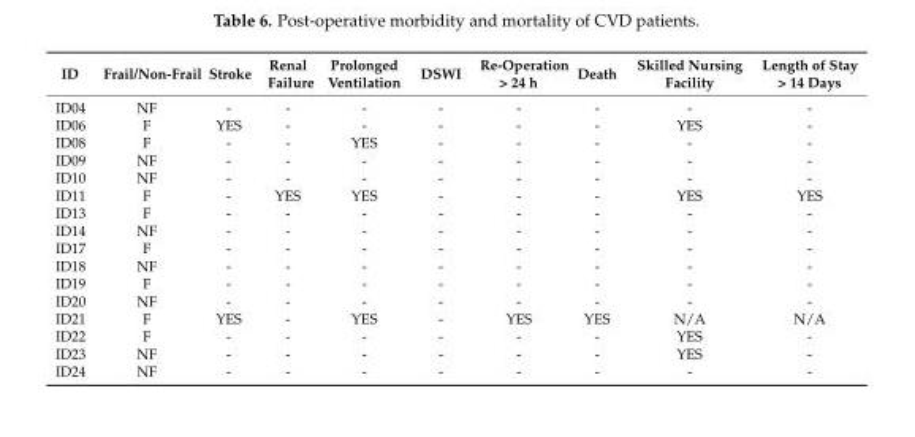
<table><thead><tr><td>ID</td><td>Frail/Non-Frail</td><td>Stroke</td><td>Renal Failure</td><td>Prolonged Ventilation</td><td>DSWI</td><td>Re-Operation &gt; 24 h</td><td>Death</td><td>Skilled Nursing Facility</td><td>Length of Stay &gt; 14 Days</td></tr></thead><tbody><tr><td>ID04</td><td>NF</td><td>-</td><td>-</td><td>-</td><td>-</td><td>-</td><td>-</td><td>-</td><td>-</td></tr><tr><td>ID06</td><td>F</td><td>YES</td><td>-</td><td>-</td><td>-</td><td>-</td><td>-</td><td>YES</td><td>-</td></tr><tr><td>ID08</td><td>F</td><td>-</td><td>-</td><td>YES</td><td>-</td><td>-</td><td>-</td><td>-</td><td>-</td></tr><tr><td>ID09</td><td>NF</td><td>-</td><td>-</td><td>-</td><td>-</td><td>-</td><td>-</td><td>-</td><td>-</td></tr><tr><td>ID10</td><td>NF</td><td>-</td><td>-</td><td>-</td><td>-</td><td>-</td><td>-</td><td>-</td><td>-</td></tr><tr><td>ID11</td><td>F</td><td>-</td><td>YES</td><td>YES</td><td>-</td><td>-</td><td>-</td><td>YES</td><td>YES</td></tr><tr><td>ID13</td><td>F</td><td>-</td><td>-</td><td>-</td><td>-</td><td>-</td><td>-</td><td>-</td><td>-</td></tr><tr><td>ID14</td><td>NF</td><td>-</td><td>-</td><td>-</td><td>-</td><td>-</td><td>-</td><td>-</td><td>-</td></tr><tr><td>ID17</td><td>F</td><td>-</td><td>-</td><td>-</td><td>-</td><td>-</td><td>-</td><td>-</td><td>-</td></tr><tr><td>ID18</td><td>NF</td><td>-</td><td>-</td><td>-</td><td>-</td><td>-</td><td>-</td><td>-</td><td>-</td></tr><tr><td>ID19</td><td>F</td><td>-</td><td>-</td><td>-</td><td>-</td><td>-</td><td>-</td><td>-</td><td>-</td></tr><tr><td>ID20</td><td>NF</td><td>-</td><td>-</td><td>-</td><td>-</td><td>-</td><td>-</td><td>-</td><td>-</td></tr><tr><td>ID21</td><td>F</td><td>YES</td><td>-</td><td>YES</td><td>-</td><td>YES</td><td>YES</td><td>N/A</td><td>N/A</td></tr><tr><td>ID22</td><td>F</td><td>-</td><td>-</td><td>-</td><td>-</td><td>-</td><td>-</td><td>YES</td><td>-</td></tr><tr><td>ID23</td><td>NF</td><td>-</td><td>-</td><td>-</td><td>-</td><td>-</td><td>-</td><td>YES</td><td>-</td></tr><tr><td>ID24</td><td>NF</td><td>-</td><td>-</td><td>-</td><td>-</td><td>-</td><td>-</td><td>-</td><td>-</td></tr></tbody></table>